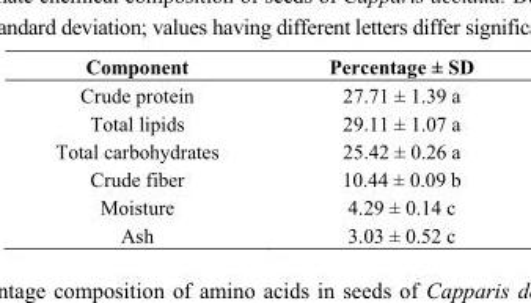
<table><thead><tr><td>Component</td><td>Percentage ± SD</td></tr></thead><tbody><tr><td>Crude protein</td><td>27.71 ± 1.39 a</td></tr><tr><td>Total lipids</td><td>29.11 ± 1.07 a</td></tr><tr><td>Total carbohydrates</td><td>25.42 ± 0.26 a</td></tr><tr><td>Crude fiber</td><td>10.44 ± 0.09 b</td></tr><tr><td>Moisture</td><td>4.29 ± 0.14 c</td></tr><tr><td>Ash</td><td>3.03 ± 0.52 c</td></tr></tbody></table>